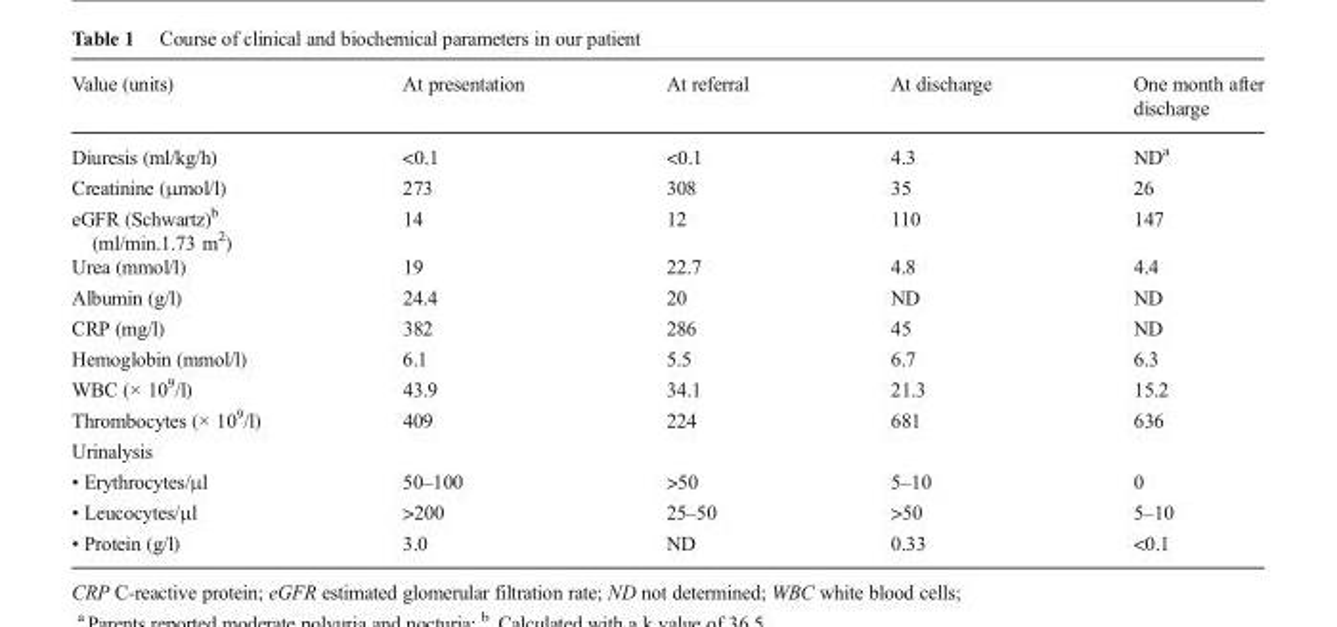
<table><thead><tr><td>Value (units)</td><td>At presentation</td><td>At referral</td><td>At discharge</td><td>One month after discharge</td></tr></thead><tbody><tr><td>Diuresis (ml/kg/h)</td><td>&lt;0.1</td><td>&lt;0.1</td><td>4.3</td><td>ND<sup>a</sup></td></tr><tr><td>Creatinine (μmol/l)</td><td>273</td><td>308</td><td>35</td><td>26</td></tr><tr><td>eGFR (Schwartz)<sup>b</sup> (ml/min.1.73 m<sup>2</sup>)</td><td>14</td><td>12</td><td>110</td><td>147</td></tr><tr><td>Urea (mmol/l)</td><td>19</td><td>22.7</td><td>4.8</td><td>4.4</td></tr><tr><td>Albumin (g/l)</td><td>24.4</td><td>20</td><td>ND</td><td>ND</td></tr><tr><td>CRP (mg/l)</td><td>382</td><td>286</td><td>45</td><td>ND</td></tr><tr><td>Hemoglobin (mmol/l)</td><td>6.1</td><td>5.5</td><td>6.7</td><td>6.3</td></tr><tr><td>WBC (× 10<sup>9</sup>/l)</td><td>43.9</td><td>34.1</td><td>21.3</td><td>15.2</td></tr><tr><td>Thrombocytes (× 10<sup>9</sup>/l)</td><td>409</td><td>224</td><td>681</td><td>636</td></tr><tr><td colspan="5">Urinalysis</td></tr><tr><td>• Erythrocytes/μl</td><td>50–100</td><td>&gt;50</td><td>5–10</td><td>0</td></tr><tr><td>• Leucocytes/μl</td><td>&gt;200</td><td>25–50</td><td>&gt;50</td><td>5–10</td></tr><tr><td>• Protein (g/l)</td><td>3.0</td><td>ND</td><td>0.33</td><td>&lt;0.1</td></tr></tbody></table>